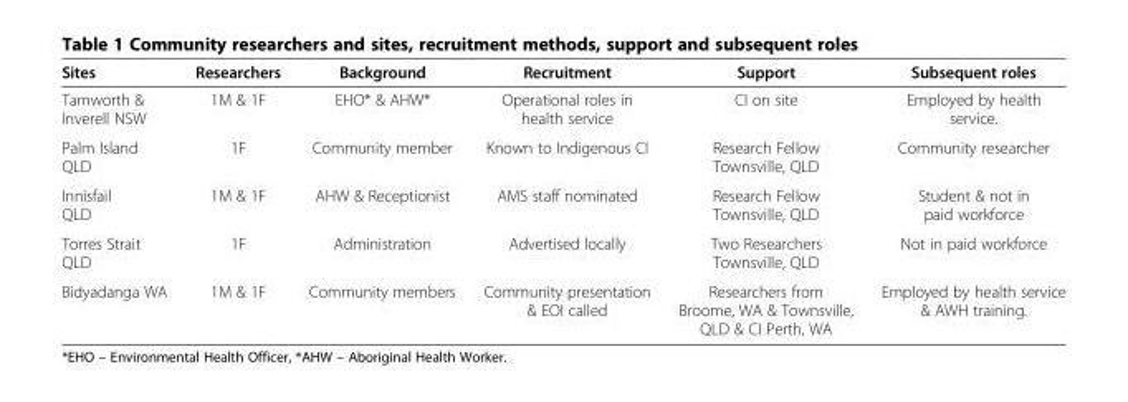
<table><thead><tr><td>Sites</td><td>Researchers</td><td>Background</td><td>Recruitment</td><td>Support</td><td>Subsequent roles</td></tr></thead><tbody><tr><td>Tamworth &amp; Inverell NSW</td><td>1M &amp; 1F</td><td>EHO* &amp; AHW*</td><td>Operational roles in health service</td><td>CI on site</td><td>Employed by health service.</td></tr><tr><td>Palm Island QLD</td><td>1F</td><td>Community member</td><td>Known to Indigenous CI</td><td>Research Fellow Townsville, QLD</td><td>Community researcher</td></tr><tr><td>Innisfail QLD</td><td>1M &amp; 1F</td><td>AHW &amp; Receptionist</td><td>AMS staff nominated</td><td>Research Fellow Townsville, QLD</td><td>Student &amp; not in paid workforce</td></tr><tr><td>Torres Strait QLD</td><td>1F</td><td>Administration</td><td>Advertised locally</td><td>Two Researchers Townsville, QLD</td><td>Not in paid workforce</td></tr><tr><td>Bidyadanga WA</td><td>1M &amp; 1F</td><td>Community members</td><td>Community presentation &amp; EOI called</td><td>Researchers from Broome, WA &amp; Townsville, QLD &amp; CI Perth, WA</td><td>Employed by health service &amp; AWH training.</td></tr></tbody></table>